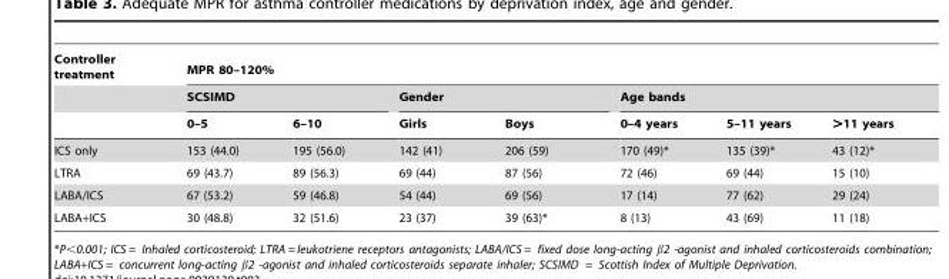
<table><thead><tr><td rowspan="3">Controller treatment</td><td colspan="7">MPR 80–120%</td></tr><tr><td colspan="2">SCSIMD</td><td colspan="2">Gender</td><td colspan="3">Age bands</td></tr><tr><td>0–5</td><td>6–10</td><td>Girls</td><td>Boys</td><td>0–4 years</td><td>5–11 years</td><td>&gt;11 years</td></tr></thead><tbody><tr><td>ICS only</td><td>153 (44.0)</td><td>195 (56.0)</td><td>142 (41)</td><td>206 (59)</td><td>170 (49)*</td><td>135 (39)*</td><td>43 (12)*</td></tr><tr><td>LTRA</td><td>69 (43.7)</td><td>89 (56.3)</td><td>69 (44)</td><td>87 (56)</td><td>72 (46)</td><td>69 (44)</td><td>15 (10)</td></tr><tr><td>LABA/ICS</td><td>67 (53.2)</td><td>59 (46.8)</td><td>54 (44)</td><td>69 (56)</td><td>17 (14)</td><td>77 (62)</td><td>29 (24)</td></tr><tr><td>LABA+ICS</td><td>30 (48.8)</td><td>32 (51.6)</td><td>23 (37)</td><td>39 (63)*</td><td>8 (13)</td><td>43 (69)</td><td>11 (18)</td></tr></tbody></table>